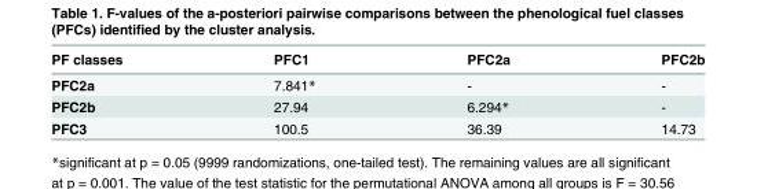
<table><thead><tr><td>PF classes</td><td>PFC1</td><td>PFC2a</td><td>PFC2b</td></tr></thead><tbody><tr><td>PFC2a</td><td>7.841*</td><td>-</td><td>-</td></tr><tr><td>PFC2b</td><td>27.94</td><td>6.294*</td><td>-</td></tr><tr><td>PFC3</td><td>100.5</td><td>36.39</td><td>14.73</td></tr></tbody></table>